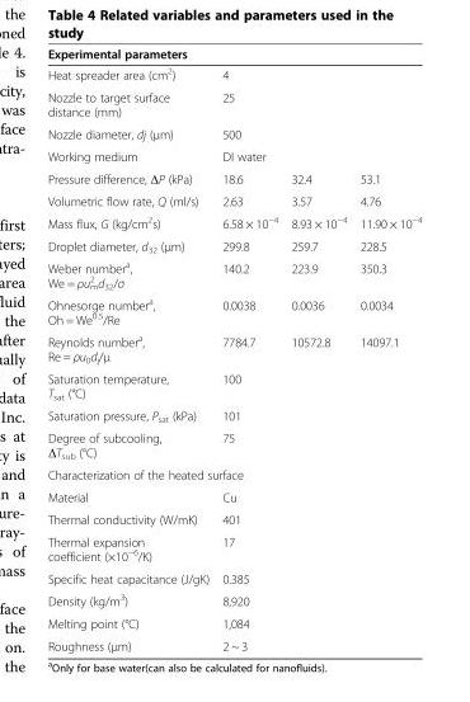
<table><thead><tr><td colspan="4">Experimental parameters</td></tr></thead><tbody><tr><td>Heat spreader area (cm<sup>2</sup>)</td><td colspan="3">4</td></tr><tr><td>Nozzle to target surface distance (mm)</td><td colspan="3">25</td></tr><tr><td>Nozzle diameter, dj (μm)</td><td colspan="3">500</td></tr><tr><td>Working medium</td><td colspan="3">DI water</td></tr><tr><td>Pressure difference, ΔP (kPa)</td><td>18.6</td><td>32.4</td><td>53.1</td></tr><tr><td>Volumetric flow rate, Q (ml/s)</td><td>2.63</td><td>3.57</td><td>4.76</td></tr><tr><td>Mass flux, G (kg/cm<sup>2</sup>s)</td><td>6.58 × 10<sup>−4</sup></td><td>8.93 × 10<sup>−4</sup></td><td>11.90 × 10<sup>−4</sup></td></tr><tr><td>Droplet diameter, d<sub>32</sub> (μm)</td><td>299.8</td><td>259.7</td><td>228.5</td></tr><tr><td>Weber number<sup>a</sup>, We = ρu<sub>m</sub> <sup>2</sup> d<sub>32</sub>/σ</td><td>140.2</td><td>223.9</td><td>350.3</td></tr><tr><td>Ohnesorge number<sup>a</sup>, Oh = We<sup>0.5</sup>/Re</td><td>0.0038</td><td>0.0036</td><td>0.0034</td></tr><tr><td>Reynolds number<sup>a</sup>, Re = ρu<sub>0</sub>d<sub>j</sub>/μ</td><td>7784.7</td><td>10572.8</td><td>14097.1</td></tr><tr><td>Saturation temperature, T<sub>sat</sub> (°C)</td><td colspan="3">100</td></tr><tr><td>Saturation pressure, P<sub>sat</sub> (kPa)</td><td colspan="3">101</td></tr><tr><td>Degree of subcooling, ΔT<sub>sub</sub> (°C)</td><td colspan="3">75</td></tr><tr><td colspan="4">Characterization of the heated surface</td></tr><tr><td>Material</td><td colspan="3">Cu</td></tr><tr><td>Thermal conductivity (W/mK)</td><td colspan="3">401</td></tr><tr><td>Thermal expansion coefficient (×10<sup>−6</sup>/K)</td><td colspan="3">17</td></tr><tr><td>Specific heat capacitance (J/gK)</td><td colspan="3">0.385</td></tr><tr><td>Density (kg/m<sup>3</sup>)</td><td colspan="3">8,920</td></tr><tr><td>Melting point (°C)</td><td colspan="3">1,084</td></tr><tr><td>Roughness (μm)</td><td colspan="3">2 ~ 3</td></tr></tbody></table>